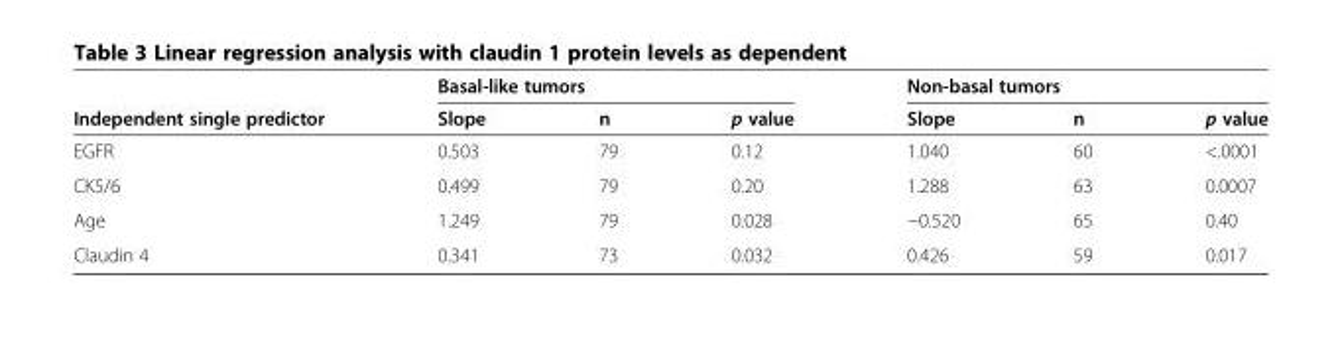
<table><thead><tr><td rowspan="2">Independent single predictor</td><td colspan="3">Basal-like tumors</td><td colspan="3">Non-basal tumors</td></tr><tr><td>Slope</td><td>n</td><td>p value</td><td>Slope</td><td>n</td><td>p value</td></tr></thead><tbody><tr><td>EGFR</td><td>0.503</td><td>79</td><td>0.12</td><td>1.040</td><td>60</td><td>&lt;.0001</td></tr><tr><td>CK5/6</td><td>0.499</td><td>79</td><td>0.20</td><td>1.288</td><td>63</td><td>0.0007</td></tr><tr><td>Age</td><td>1.249</td><td>79</td><td>0.028</td><td>−0.520</td><td>65</td><td>0.40</td></tr><tr><td>Claudin 4</td><td>0.341</td><td>73</td><td>0.032</td><td>0.426</td><td>59</td><td>0.017</td></tr></tbody></table>